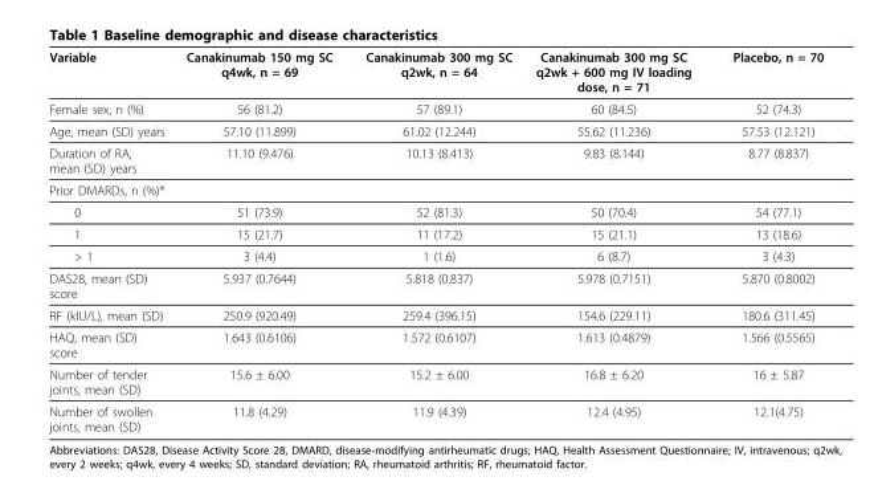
<table><thead><tr><td>Variable</td><td>Canakinumab 150 mg SC q4wk, n = 69</td><td>Canakinumab 300 mg SC q2wk, n = 64</td><td>Canakinumab 300 mg SC q2wk + 600 mg IV loading dose, n = 71</td><td>Placebo, n = 70</td></tr></thead><tbody><tr><td>Female sex, n (%)</td><td>56 (81.2)</td><td>57 (89.1)</td><td>60 (84.5)</td><td>52 (74.3)</td></tr><tr><td>Age, mean (SD) years</td><td>57.10 (11.899)</td><td>61.02 (12.244)</td><td>55.62 (11.236)</td><td>57.53 (12.121)</td></tr><tr><td>Duration of RA, mean (SD) years</td><td>11.10 (9.476)</td><td>10.13 (8.413)</td><td>9.83 (8.144)</td><td>8.77 (8.837)</td></tr><tr><td colspan="5">Prior DMARDs, n (%)*</td></tr><tr><td>0</td><td>51 (73.9)</td><td>52 (81.3)</td><td>50 (70.4)</td><td>54 (77.1)</td></tr><tr><td>1</td><td>15 (21.7)</td><td>11 (17.2)</td><td>15 (21.1)</td><td>13 (18.6)</td></tr><tr><td>&gt; 1</td><td>3 (4.4)</td><td>1 (1.6)</td><td>6 (8.7)</td><td>3 (4.3)</td></tr><tr><td>DAS28, mean (SD) score</td><td>5.937 (0.7644)</td><td>5.818 (0.837)</td><td>5.978 (0.7151)</td><td>5.870 (0.8002)</td></tr><tr><td>RF (kIU/L), mean (SD)</td><td>250.9 (920.49)</td><td>259.4 (396.15)</td><td>154.6 (229.11)</td><td>180.6 (311.45)</td></tr><tr><td>HAQ, mean (SD) score</td><td>1.643 (0.6106)</td><td>1.572 (0.6107)</td><td>1.613 (0.4879)</td><td>1.566 (0.5565)</td></tr><tr><td>Number of tender joints, mean (SD)</td><td>15.6 ± 6.00</td><td>15.2 ± 6.00</td><td>16.8 ± 6.20</td><td>16 ± 5.87</td></tr><tr><td>Number of swollen joints, mean (SD)</td><td>11.8 (4.29)</td><td>11.9 (4.39)</td><td>12.4 (4.95)</td><td>12.1(4.75)</td></tr></tbody></table>